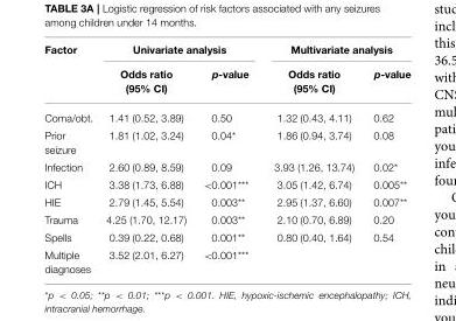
<table><thead><tr><td rowspan="2">Factor</td><td colspan="2">Univariate analysis</td><td colspan="2">Multivariate analysis</td></tr><tr><td>Odds ratio (95% CI)</td><td>p-value</td><td>Odds ratio (95% CI)</td><td>p-value</td></tr></thead><tbody><tr><td>Coma/obt.</td><td>1.41 (0.52, 3.89)</td><td>0.50</td><td>1.32 (0.43, 4.11)</td><td>0.62</td></tr><tr><td>Prior seizure</td><td>1.81 (1.02, 3.24)</td><td>0.04*</td><td>1.86 (0.94, 3.74)</td><td>0.08</td></tr><tr><td>Infection</td><td>2.60 (0.89, 8.59)</td><td>0.09</td><td>3.93 (1.26, 13.74)</td><td>0.02*</td></tr><tr><td>ICH</td><td>3.38 (1.73, 6.88)</td><td>&lt;0.001***</td><td>3.05 (1.42, 6.74)</td><td>0.005**</td></tr><tr><td>HIE</td><td>2.79 (1.45, 5.54)</td><td>0.003**</td><td>2.95 (1.37, 6.60)</td><td>0.007**</td></tr><tr><td>Trauma</td><td>4.25 (1.70, 12.17)</td><td>0.003**</td><td>2.10 (0.70, 6.89)</td><td>0.20</td></tr><tr><td>Spells</td><td>0.39 (0.22, 0.68)</td><td>0.001**</td><td>0.80 (0.40, 1.64)</td><td>0.54</td></tr><tr><td>Multiple diagnoses</td><td>3.52 (2.01, 6.27)</td><td>&lt;0.001***</td><td></td><td></td></tr></tbody></table>